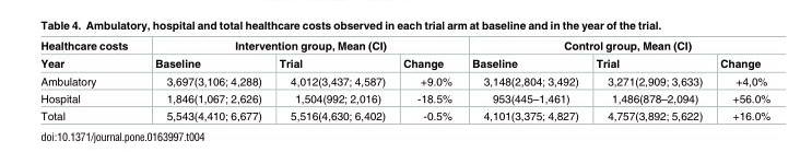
<table><thead><tr><td rowspan="2">Healthcare costs Year</td><td colspan="3">Intervention group, Mean (CI)</td><td colspan="3">Control group, Mean (CI)</td></tr><tr><td>Baseline</td><td>Trial</td><td>Change</td><td>Baseline</td><td>Trial</td><td>Change</td></tr></thead><tbody><tr><td>Ambulatory</td><td>3,697(3,106; 4,288)</td><td>4,012(3,437; 4,587)</td><td>+9.0%</td><td>3,148(2,804; 3,492)</td><td>3,271(2,909; 3,633)</td><td>+4,0%</td></tr><tr><td>Hospital</td><td>1,846(1,067; 2,626)</td><td>1,504(992; 2,016)</td><td>-18.5%</td><td>953(445–1,461)</td><td>1,486(878–2,094)</td><td>+56.0%</td></tr><tr><td>Total</td><td>5,543(4,410; 6,677)</td><td>5,516(4,630; 6,402)</td><td>-0.5%</td><td>4,101(3,375; 4,827)</td><td>4,757(3,892; 5,622)</td><td>+16.0%</td></tr></tbody></table>